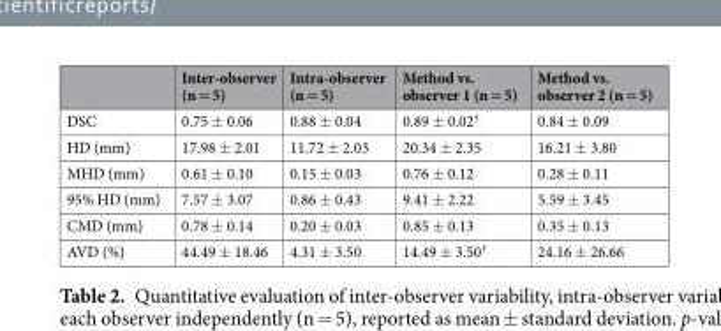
<table><thead><tr><td></td><td>Inter-observer (n = 5)</td><td>Intra-observer (n = 5)</td><td>Method vs. observer 1 (n = 5)</td><td>Method vs. observer 2 (n = 5)</td></tr></thead><tbody><tr><td>DSC</td><td>0.75 ± 0.06</td><td>0.88 ± 0.04</td><td>0.89 ± 0.02<sup>†</sup></td><td>0.84 ± 0.09</td></tr><tr><td>HD (mm)</td><td>17.98 ± 2.01</td><td>11.72 ± 2.03</td><td>20.34 ± 2.35</td><td>16.21 ± 3.80</td></tr><tr><td>MHD (mm)</td><td>0.61 ± 0.10</td><td>0.15 ± 0.03</td><td>0.76 ± 0.12</td><td>0.28 ± 0.11</td></tr><tr><td>95% HD (mm)</td><td>7.57 ± 3.07</td><td>0.86 ± 0.43</td><td>9.41 ± 2.22</td><td>5.59 ± 3.45</td></tr><tr><td>CMD (mm)</td><td>0.78 ± 0.14</td><td>0.20 ± 0.03</td><td>0.85 ± 0.13</td><td>0.35 ± 0.13</td></tr><tr><td>AVD (%)</td><td>44.49 ± 18.46</td><td>4.31 ± 3.50</td><td>14.49 ± 3.50<sup>†</sup></td><td>24.16 ± 26.66</td></tr></tbody></table>